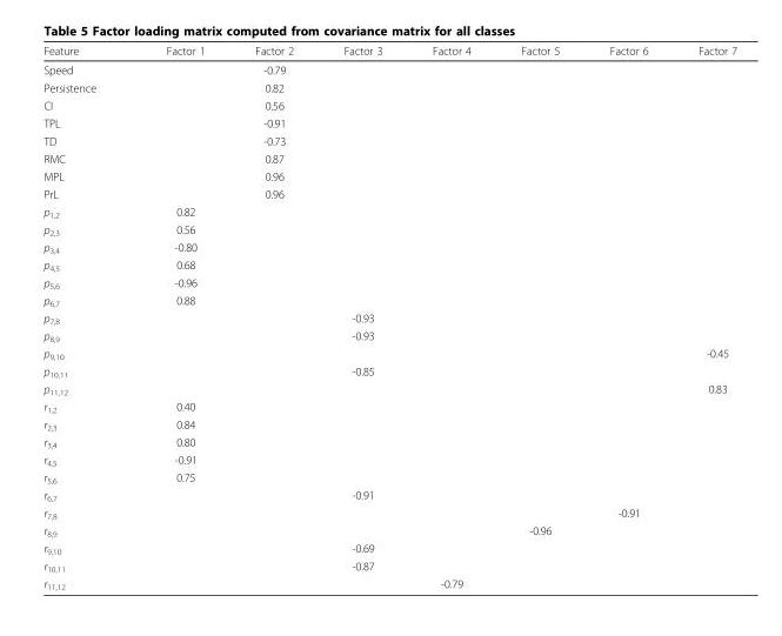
<table><thead><tr><td>Feature</td><td>Factor 1</td><td>Factor 2</td><td>Factor 3</td><td>Factor 4</td><td>Factor 5</td><td>Factor 6</td><td>Factor 7</td></tr></thead><tbody><tr><td>Speed</td><td></td><td>-0.79</td><td></td><td></td><td></td><td></td><td></td></tr><tr><td>Persistence</td><td></td><td>0.82</td><td></td><td></td><td></td><td></td><td></td></tr><tr><td>CI</td><td></td><td>0.56</td><td></td><td></td><td></td><td></td><td></td></tr><tr><td>TPL</td><td></td><td>-0.91</td><td></td><td></td><td></td><td></td><td></td></tr><tr><td>TD</td><td></td><td>-0.73</td><td></td><td></td><td></td><td></td><td></td></tr><tr><td>RMC</td><td></td><td>0.87</td><td></td><td></td><td></td><td></td><td></td></tr><tr><td>MPL</td><td></td><td>0.96</td><td></td><td></td><td></td><td></td><td></td></tr><tr><td>PrL</td><td></td><td>0.96</td><td></td><td></td><td></td><td></td><td></td></tr><tr><td>p<sub>1,2</sub></td><td>0.82</td><td></td><td></td><td></td><td></td><td></td><td></td></tr><tr><td>p<sub>2,3</sub></td><td>0.56</td><td></td><td></td><td></td><td></td><td></td><td></td></tr><tr><td>p<sub>3,4</sub></td><td>-0.80</td><td></td><td></td><td></td><td></td><td></td><td></td></tr><tr><td>p<sub>4,5</sub></td><td>0.68</td><td></td><td></td><td></td><td></td><td></td><td></td></tr><tr><td>p<sub>5,6</sub></td><td>-0.96</td><td></td><td></td><td></td><td></td><td></td><td></td></tr><tr><td>p<sub>6,7</sub></td><td>0.88</td><td></td><td></td><td></td><td></td><td></td><td></td></tr><tr><td>p<sub>7,8</sub></td><td></td><td></td><td>-0.93</td><td></td><td></td><td></td><td></td></tr><tr><td>p<sub>8,9</sub></td><td></td><td></td><td>-0.93</td><td></td><td></td><td></td><td></td></tr><tr><td>p<sub>9,10</sub></td><td></td><td></td><td></td><td></td><td></td><td></td><td>-0.45</td></tr><tr><td>p<sub>10,11</sub></td><td></td><td></td><td>-0.85</td><td></td><td></td><td></td><td></td></tr><tr><td>p<sub>11,12</sub></td><td></td><td></td><td></td><td></td><td></td><td></td><td>0.83</td></tr><tr><td>r<sub>1,2</sub></td><td>0.40</td><td></td><td></td><td></td><td></td><td></td><td></td></tr><tr><td>r<sub>2,3</sub></td><td>0.84</td><td></td><td></td><td></td><td></td><td></td><td></td></tr><tr><td>r<sub>3,4</sub></td><td>0.80</td><td></td><td></td><td></td><td></td><td></td><td></td></tr><tr><td>r<sub>4,5</sub></td><td>-0.91</td><td></td><td></td><td></td><td></td><td></td><td></td></tr><tr><td>r<sub>5,6</sub></td><td>0.75</td><td></td><td></td><td></td><td></td><td></td><td></td></tr><tr><td>r<sub>6,7</sub></td><td></td><td></td><td>-0.91</td><td></td><td></td><td></td><td></td></tr><tr><td>r<sub>7,8</sub></td><td></td><td></td><td></td><td></td><td></td><td>-0.91</td><td></td></tr><tr><td>r<sub>8,9</sub></td><td></td><td></td><td></td><td></td><td>-0.96</td><td></td><td></td></tr><tr><td>r<sub>9,10</sub></td><td></td><td></td><td>-0.69</td><td></td><td></td><td></td><td></td></tr><tr><td>r<sub>10,11</sub></td><td></td><td></td><td>-0.87</td><td></td><td></td><td></td><td></td></tr><tr><td>r<sub>11,12</sub></td><td></td><td></td><td></td><td>-0.79</td><td></td><td></td><td></td></tr></tbody></table>